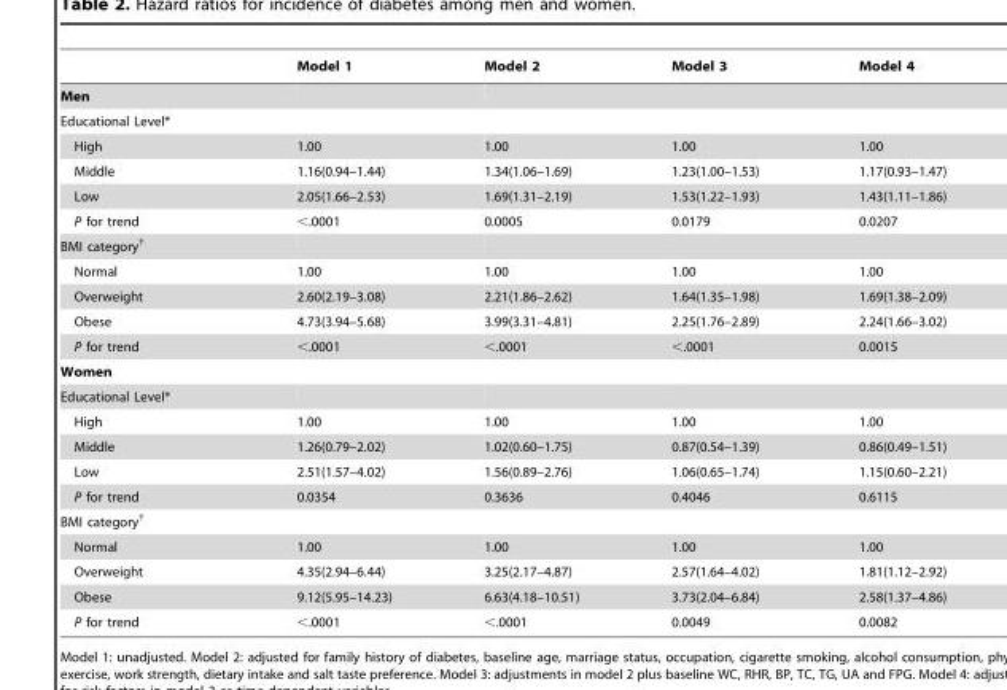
<table><thead><tr><td></td><td>Model 1</td><td>Model 2</td><td>Model 3</td><td>Model 4</td></tr></thead><tbody><tr><td colspan="5">Men</td></tr><tr><td colspan="5">Educational Level*</td></tr><tr><td>High</td><td>1.00</td><td>1.00</td><td>1.00</td><td>1.00</td></tr><tr><td>Middle</td><td>1.16(0.94–1.44)</td><td>1.34(1.06–1.69)</td><td>1.23(1.00–1.53)</td><td>1.17(0.93–1.47)</td></tr><tr><td>Low</td><td>2.05(1.66–2.53)</td><td>1.69(1.31–2.19)</td><td>1.53(1.22–1.93)</td><td>1.43(1.11–1.86)</td></tr><tr><td>P for trend</td><td>&lt;.0001</td><td>0.0005</td><td>0.0179</td><td>0.0207</td></tr><tr><td colspan="5">BMI category†</td></tr><tr><td>Normal</td><td>1.00</td><td>1.00</td><td>1.00</td><td>1.00</td></tr><tr><td>Overweight</td><td>2.60(2.19–3.08)</td><td>2.21(1.86–2.62)</td><td>1.64(1.35–1.98)</td><td>1.69(1.38–2.09)</td></tr><tr><td>Obese</td><td>4.73(3.94–5.68)</td><td>3.99(3.31–4.81)</td><td>2.25(1.76–2.89)</td><td>2.24(1.66–3.02)</td></tr><tr><td>P for trend</td><td>&lt;.0001</td><td>&lt;.0001</td><td>&lt;.0001</td><td>0.0015</td></tr><tr><td colspan="5">Women</td></tr><tr><td colspan="5">Educational Level*</td></tr><tr><td>High</td><td>1.00</td><td>1.00</td><td>1.00</td><td>1.00</td></tr><tr><td>Middle</td><td>1.26(0.79–2.02)</td><td>1.02(0.60–1.75)</td><td>0.87(0.54–1.39)</td><td>0.86(0.49–1.51)</td></tr><tr><td>Low</td><td>2.51(1.57–4.02)</td><td>1.56(0.89–2.76)</td><td>1.06(0.65–1.74)</td><td>1.15(0.60–2.21)</td></tr><tr><td>P for trend</td><td>0.0354</td><td>0.3636</td><td>0.4046</td><td>0.6115</td></tr><tr><td colspan="5">BMI category†</td></tr><tr><td>Normal</td><td>1.00</td><td>1.00</td><td>1.00</td><td>1.00</td></tr><tr><td>Overweight</td><td>4.35(2.94–6.44)</td><td>3.25(2.17–4.87)</td><td>2.57(1.64–4.02)</td><td>1.81(1.12–2.92)</td></tr><tr><td>Obese</td><td>9.12(5.95–14.23)</td><td>6.63(4.18–10.51)</td><td>3.73(2.04–6.84)</td><td>2.58(1.37–4.86)</td></tr><tr><td>P for trend</td><td>&lt;.0001</td><td>&lt;.0001</td><td>0.0049</td><td>0.0082</td></tr></tbody></table>